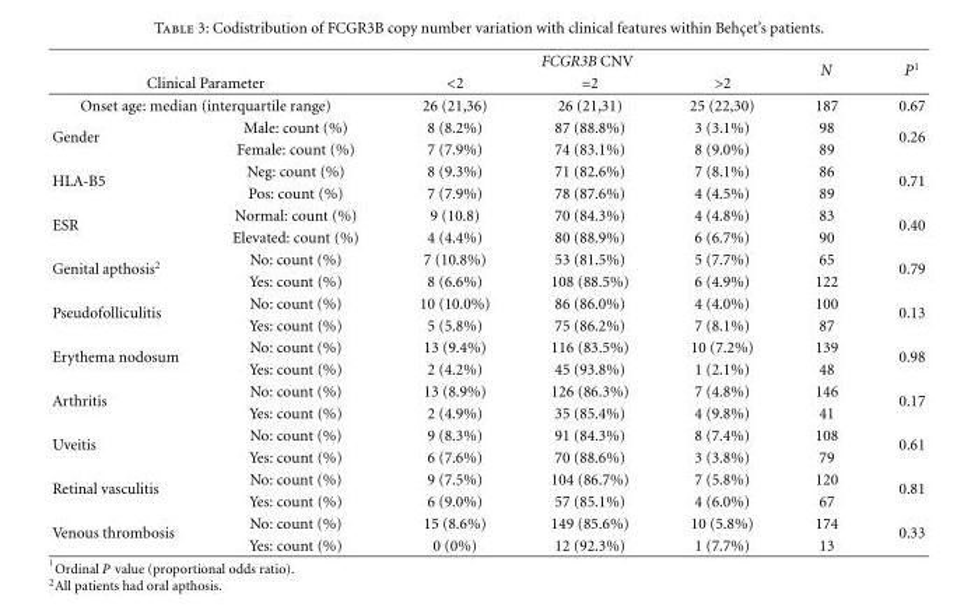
<table><thead><tr><td></td><td></td><td colspan="3">FCGR3B CNV</td><td rowspan="2">N</td><td rowspan="2">P<sup>1</sup></td></tr><tr><td colspan="2">Clinical Parameter</td><td>&lt;2</td><td>=2</td><td>&gt;2</td></tr></thead><tbody><tr><td colspan="2">Onset age: median (interquartile range)</td><td>26 (21,36)</td><td>26 (21,31)</td><td>25 (22,30)</td><td>187</td><td>0.67</td></tr><tr><td rowspan="2">Gender</td><td>Male: count (%)</td><td>8 (8.2%)</td><td>87 (88.8%)</td><td>3 (3.1%)</td><td>98</td><td rowspan="2">0.26</td></tr><tr><td>Female: count (%)</td><td>7 (7.9%)</td><td>74 (83.1%)</td><td>8 (9.0%)</td><td>89</td></tr><tr><td rowspan="2">HLA-B5</td><td>Neg: count (%)</td><td>8 (9.3%)</td><td>71 (82.6%)</td><td>7 (8.1%)</td><td>86</td><td rowspan="2">0.71</td></tr><tr><td>Pos: count (%)</td><td>7 (7.9%)</td><td>78 (87.6%)</td><td>4 (4.5%)</td><td>89</td></tr><tr><td rowspan="2">ESR</td><td>Normal: count (%)</td><td>9 (10.8)</td><td>70 (84.3%)</td><td>4 (4.8%)</td><td>83</td><td rowspan="2">0.40</td></tr><tr><td>Elevated: count (%)</td><td>4 (4.4%)</td><td>80 (88.9%)</td><td>6 (6.7%)</td><td>90</td></tr><tr><td rowspan="2">Genital apthosis<sup>2</sup></td><td>No: count (%)</td><td>7 (10.8%)</td><td>53 (81.5%)</td><td>5 (7.7%)</td><td>65</td><td rowspan="2">0.79</td></tr><tr><td>Yes: count (%)</td><td>8 (6.6%)</td><td>108 (88.5%)</td><td>6 (4.9%)</td><td>122</td></tr><tr><td rowspan="2">Pseudofolliculitis</td><td>No: count (%)</td><td>10 (10.0%)</td><td>86 (86.0%)</td><td>4 (4.0%)</td><td>100</td><td rowspan="2">0.13</td></tr><tr><td>Yes: count (%)</td><td>5 (5.8%)</td><td>75 (86.2%)</td><td>7 (8.1%)</td><td>87</td></tr><tr><td rowspan="2">Erythema nodosum</td><td>No: count (%)</td><td>13 (9.4%)</td><td>116 (83.5%)</td><td>10 (7.2%)</td><td>139</td><td rowspan="2">0.98</td></tr><tr><td>Yes: count (%)</td><td>2 (4.2%)</td><td>45 (93.8%)</td><td>1 (2.1%)</td><td>48</td></tr><tr><td rowspan="2">Arthritis</td><td>No: count (%)</td><td>13 (8.9%)</td><td>126 (86.3%)</td><td>7 (4.8%)</td><td>146</td><td rowspan="2">0.17</td></tr><tr><td>Yes: count (%)</td><td>2 (4.9%)</td><td>35 (85.4%)</td><td>4 (9.8%)</td><td>41</td></tr><tr><td rowspan="2">Uveitis</td><td>No: count (%)</td><td>9 (8.3%)</td><td>91 (84.3%)</td><td>8 (7.4%)</td><td>108</td><td rowspan="2">0.61</td></tr><tr><td>Yes: count (%)</td><td>6 (7.6%)</td><td>70 (88.6%)</td><td>3 (3.8%)</td><td>79</td></tr><tr><td rowspan="2">Retinal vasculitis</td><td>No: count (%)</td><td>9 (7.5%)</td><td>104 (86.7%)</td><td>7 (5.8%)</td><td>120</td><td rowspan="2">0.81</td></tr><tr><td>Yes: count (%)</td><td>6 (9.0%)</td><td>57 (85.1%)</td><td>4 (6.0%)</td><td>67</td></tr><tr><td rowspan="2">Venous thrombosis</td><td>No: count (%)</td><td>15 (8.6%)</td><td>149 (85.6%)</td><td>10 (5.8%)</td><td>174</td><td rowspan="2">0.33</td></tr><tr><td>Yes: count (%)</td><td>0 (0%)</td><td>12 (92.3%)</td><td>1 (7.7%)</td><td>13</td></tr></tbody></table>